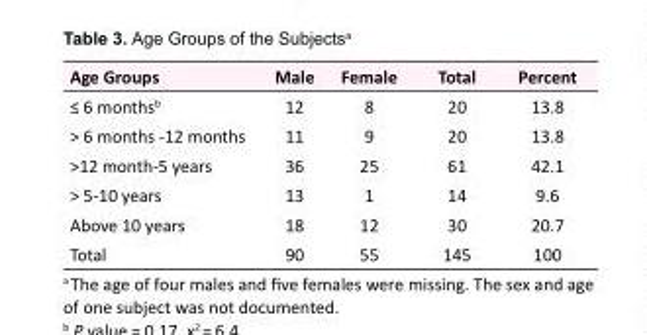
<table><tbody><tr><td>Age Groups</td><td>Male</td><td>Female</td><td>Total</td><td>Percent</td></tr><tr><td>≤ 6 months<sup>b</sup></td><td>12</td><td>8</td><td>20</td><td>13.8</td></tr><tr><td>&gt; 6 months -12 months</td><td>11</td><td>9</td><td>20</td><td>13.8</td></tr><tr><td>&gt;12 month-5 years</td><td>36</td><td>25</td><td>61</td><td>42.1</td></tr><tr><td>&gt; 5-10 years</td><td>13</td><td>1</td><td>14</td><td>9.6</td></tr><tr><td>Above 10 years</td><td>18</td><td>12</td><td>30</td><td>20.7</td></tr><tr><td>Total</td><td>90</td><td>55</td><td>145</td><td>100</td></tr></tbody></table>